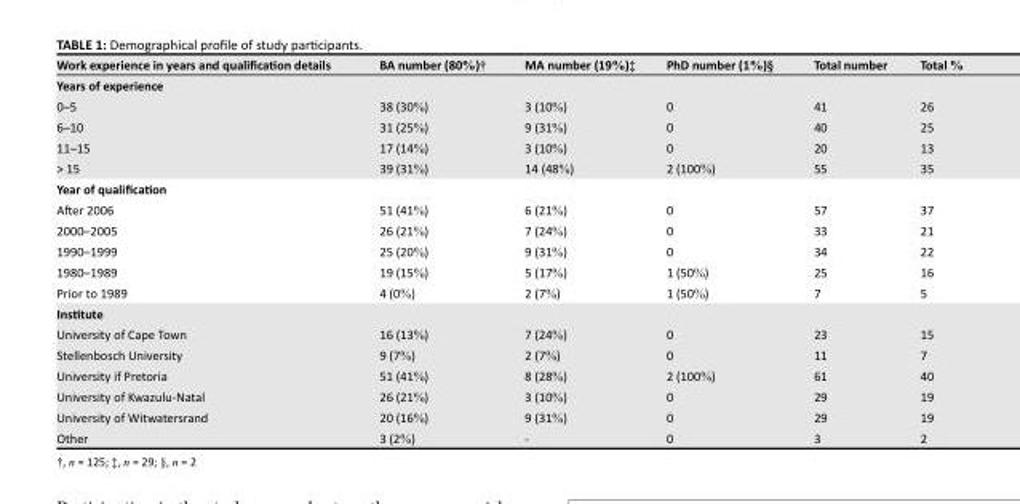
<table><thead><tr><td>Work experience in years and qualification details</td><td>BA number (80%)†</td><td>MA number (19%)‡</td><td>PhD number (1%)§</td><td>Total number</td><td>Total %</td></tr></thead><tbody><tr><td colspan="6">Years of experience</td></tr><tr><td>0–5</td><td>38 (30%)</td><td>3 (10%)</td><td>0</td><td>41</td><td>26</td></tr><tr><td>6–10</td><td>31 (25%)</td><td>9 (31%)</td><td>0</td><td>40</td><td>25</td></tr><tr><td>11–15</td><td>17 (14%)</td><td>3 (10%)</td><td>0</td><td>20</td><td>13</td></tr><tr><td>&gt; 15</td><td>39 (31%)</td><td>14 (48%)</td><td>2 (100%)</td><td>55</td><td>35</td></tr><tr><td colspan="6">Year of qualification</td></tr><tr><td>After 2006</td><td>51 (41%)</td><td>6 (21%)</td><td>0</td><td>57</td><td>37</td></tr><tr><td>2000–2005</td><td>26 (21%)</td><td>7 (24%)</td><td>0</td><td>33</td><td>21</td></tr><tr><td>1990–1999</td><td>25 (20%)</td><td>9 (31%)</td><td>0</td><td>34</td><td>22</td></tr><tr><td>1980–1989</td><td>19 (15%)</td><td>5 (17%)</td><td>1 (50%)</td><td>25</td><td>16</td></tr><tr><td>Prior to 1989</td><td>4 (0%)</td><td>2 (7%)</td><td>1 (50%)</td><td>7</td><td>5</td></tr><tr><td colspan="6">Institute</td></tr><tr><td>University of Cape Town</td><td>16 (13%)</td><td>7 (24%)</td><td>0</td><td>23</td><td>15</td></tr><tr><td>Stellenbosch University</td><td>9 (7%)</td><td>2 (7%)</td><td>0</td><td>11</td><td>7</td></tr><tr><td>University if Pretoria</td><td>51 (41%)</td><td>8 (28%)</td><td>2 (100%)</td><td>61</td><td>40</td></tr><tr><td>University of Kwazulu-Natal</td><td>26 (21%)</td><td>3 (10%)</td><td>0</td><td>29</td><td>19</td></tr><tr><td>University of Witwatersrand</td><td>20 (16%)</td><td>9 (31%)</td><td>0</td><td>29</td><td>19</td></tr><tr><td>Other</td><td>3 (2%)</td><td>-</td><td>0</td><td>3</td><td>2</td></tr></tbody></table>